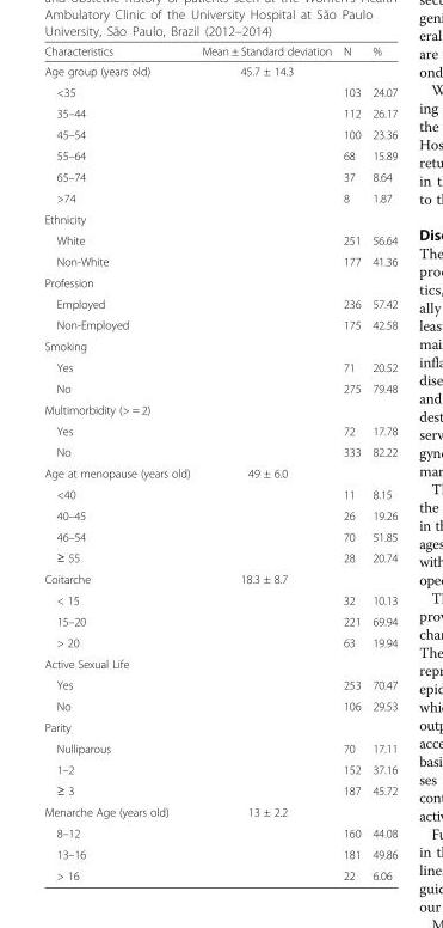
<table><thead><tr><td>Characteristics</td><td>Mean ± Standard deviation</td><td>N</td><td>%</td></tr></thead><tbody><tr><td>Age group (years old)</td><td>45.7 ± 14.3</td><td></td><td></td></tr><tr><td>&lt;35</td><td></td><td>103</td><td>24.07</td></tr><tr><td>35–44</td><td></td><td>112</td><td>26.17</td></tr><tr><td>45–54</td><td></td><td>100</td><td>23.36</td></tr><tr><td>55–64</td><td></td><td>68</td><td>15.89</td></tr><tr><td>65–74</td><td></td><td>37</td><td>8.64</td></tr><tr><td>&gt;74</td><td></td><td>8</td><td>1.87</td></tr><tr><td colspan="4">Ethnicity</td></tr><tr><td>White</td><td></td><td>251</td><td>56.64</td></tr><tr><td>Non-White</td><td></td><td>177</td><td>41.36</td></tr><tr><td colspan="4">Profession</td></tr><tr><td>Employed</td><td></td><td>236</td><td>57.42</td></tr><tr><td>Non-Employed</td><td></td><td>175</td><td>42.58</td></tr><tr><td colspan="4">Smoking</td></tr><tr><td>Yes</td><td></td><td>71</td><td>20.52</td></tr><tr><td>No</td><td></td><td>275</td><td>79.48</td></tr><tr><td colspan="4">Multimorbidity (&gt; = 2)</td></tr><tr><td>Yes</td><td></td><td>72</td><td>17.78</td></tr><tr><td>No</td><td></td><td>333</td><td>82.22</td></tr><tr><td>Age at menopause (years old)</td><td>49 ± 6.0</td><td></td><td></td></tr><tr><td>&lt;40</td><td></td><td>11</td><td>8.15</td></tr><tr><td>40–45</td><td></td><td>26</td><td>19.26</td></tr><tr><td>46–54</td><td></td><td>70</td><td>51.85</td></tr><tr><td>≥ 55</td><td></td><td>28</td><td>20.74</td></tr><tr><td>Coitarche</td><td>18.3 ± 8.7</td><td></td><td></td></tr><tr><td>&lt; 15</td><td></td><td>32</td><td>10.13</td></tr><tr><td>15–20</td><td></td><td>221</td><td>69.94</td></tr><tr><td>&gt; 20</td><td></td><td>63</td><td>19.94</td></tr><tr><td colspan="4">Active Sexual Life</td></tr><tr><td>Yes</td><td></td><td>253</td><td>70.47</td></tr><tr><td>No</td><td></td><td>106</td><td>29.53</td></tr><tr><td colspan="4">Parity</td></tr><tr><td>Nulliparous</td><td></td><td>70</td><td>17.11</td></tr><tr><td>1–2</td><td></td><td>152</td><td>37.16</td></tr><tr><td>≥ 3</td><td></td><td>187</td><td>45.72</td></tr><tr><td>Menarche Age (years old)</td><td>13 ± 2.2</td><td></td><td></td></tr><tr><td>8–12</td><td></td><td>160</td><td>44.08</td></tr><tr><td>13–16</td><td></td><td>181</td><td>49.86</td></tr><tr><td>&gt; 16</td><td></td><td>22</td><td>6.06</td></tr></tbody></table>